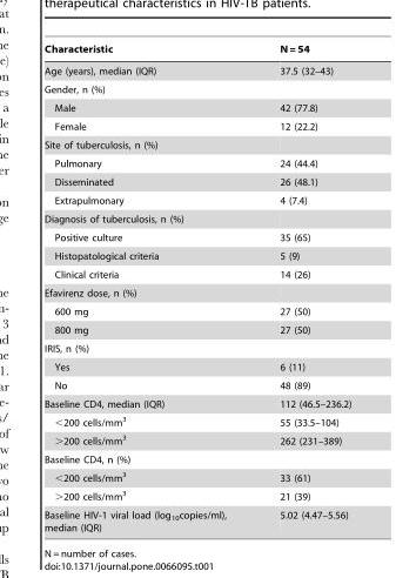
<table><thead><tr><td>Characteristic</td><td>N = 54</td></tr></thead><tbody><tr><td>Age (years), median (IQR)</td><td>37.5 (32–43)</td></tr><tr><td colspan="2">Gender, n (%)</td></tr><tr><td>Male</td><td>42 (77.8)</td></tr><tr><td>Female</td><td>12 (22.2)</td></tr><tr><td colspan="2">Site of tuberculosis, n (%)</td></tr><tr><td>Pulmonary</td><td>24 (44.4)</td></tr><tr><td>Disseminated</td><td>26 (48.1)</td></tr><tr><td>Extrapulmonary</td><td>4 (7.4)</td></tr><tr><td colspan="2">Diagnosis of tuberculosis, n (%)</td></tr><tr><td>Positive culture</td><td>35 (65)</td></tr><tr><td>Histopatological criteria</td><td>5 (9)</td></tr><tr><td>Clinical criteria</td><td>14 (26)</td></tr><tr><td colspan="2">Efavirenz dose, n (%)</td></tr><tr><td>600 mg</td><td>27 (50)</td></tr><tr><td>800 mg</td><td>27 (50)</td></tr><tr><td colspan="2">IRIS, n (%)</td></tr><tr><td>Yes</td><td>6 (11)</td></tr><tr><td>No</td><td>48 (89)</td></tr><tr><td>Baseline CD4, median (IQR)</td><td>112 (46.5–236.2)</td></tr><tr><td>&lt;200 cells/mm<sup>3</sup></td><td>55 (33.5–104)</td></tr><tr><td>&gt;200 cells/mm<sup>3</sup></td><td>262 (231–389)</td></tr><tr><td colspan="2">Baseline CD4, n (%)</td></tr><tr><td>&lt;200 cells/mm<sup>3</sup></td><td>33 (61)</td></tr><tr><td>&gt;200 cells/mm<sup>3</sup></td><td>21 (39)</td></tr><tr><td>Baseline HIV-1 viral load (log<sub>10</sub>copies/ml), median (IQR)</td><td>5.02 (4.47–5.56)</td></tr></tbody></table>